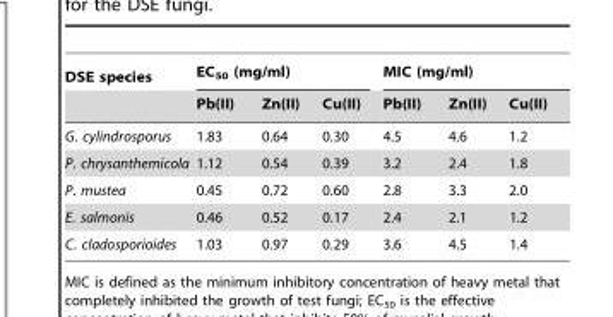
<table><thead><tr><td rowspan="2">DSE species</td><td colspan="3">EC<sub>50</sub> (mg/ml)</td><td colspan="3">MIC (mg/ml)</td></tr><tr><td>Pb(II)</td><td>Zn(II)</td><td>Cu(II)</td><td>Pb(II)</td><td>Zn(II)</td><td>Cu(II)</td></tr></thead><tbody><tr><td>G. cylindrosporus</td><td>1.83</td><td>0.64</td><td>0.30</td><td>4.5</td><td>4.6</td><td>1.2</td></tr><tr><td>P. chrysanthemicola</td><td>1.12</td><td>0.54</td><td>0.39</td><td>3.2</td><td>2.4</td><td>1.8</td></tr><tr><td>P. mustea</td><td>0.45</td><td>0.72</td><td>0.60</td><td>2.8</td><td>3.3</td><td>2.0</td></tr><tr><td>E. salmonis</td><td>0.46</td><td>0.52</td><td>0.17</td><td>2.4</td><td>2.1</td><td>1.2</td></tr><tr><td>C. cladosporioides</td><td>1.03</td><td>0.97</td><td>0.29</td><td>3.6</td><td>4.5</td><td>1.4</td></tr></tbody></table>